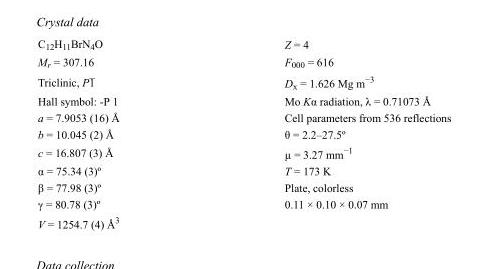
<table><tbody><tr><td>C<sub>12</sub>H<sub>11</sub>BrN<sub>4</sub>O</td><td>Z = 4</td></tr><tr><td>M<sub>r</sub> = 307.16</td><td>F000 = 616</td></tr><tr><td>Triclinic, P1</td><td>D<sub>x</sub> = 1.626 Mg m<sup>−3</sup></td></tr><tr><td>Hall symbol: -P 1</td><td>Mo Kα radiation, λ = 0.71073 Å</td></tr><tr><td>a = 7.9053 (16) Å</td><td>Cell parameters from 536 reflections</td></tr><tr><td>b = 10.045 (2) Å</td><td>θ = 2.2–27.5º</td></tr><tr><td>c = 16.807 (3) Å</td><td>µ = 3.27 mm<sup>−1</sup></td></tr><tr><td>α = 75.34 (3)º</td><td>T = 173 K</td></tr><tr><td>β = 77.98 (3)º</td><td>Plate, colorless</td></tr><tr><td>γ = 80.78 (3)º</td><td>0.11 × 0.10 × 0.07 mm</td></tr><tr><td>V = 1254.7 (4) Å<sup>3</sup></td><td></td></tr></tbody></table>